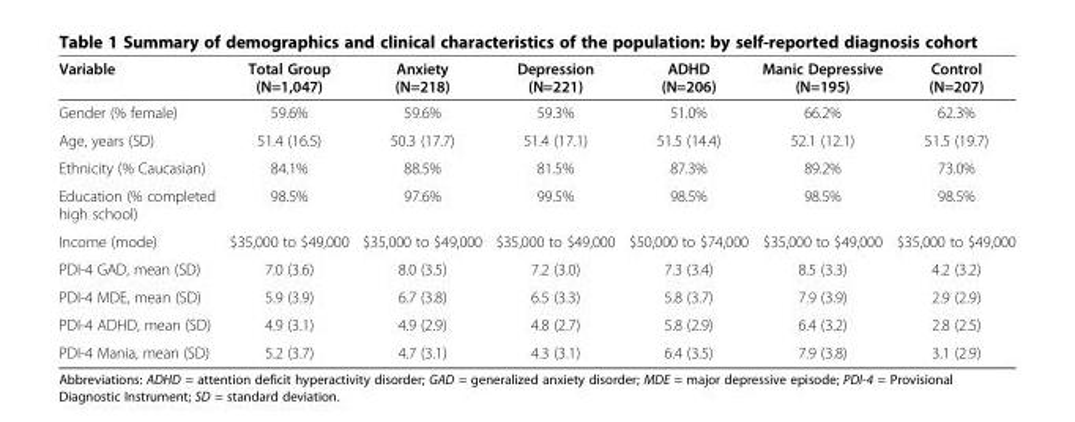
<table><thead><tr><td>Variable</td><td>Total Group (N=1,047)</td><td>Anxiety (N=218)</td><td>Depression (N=221)</td><td>ADHD (N=206)</td><td>Manic Depressive (N=195)</td><td>Control (N=207)</td></tr></thead><tbody><tr><td>Gender (% female)</td><td>59.6%</td><td>59.6%</td><td>59.3%</td><td>51.0%</td><td>66.2%</td><td>62.3%</td></tr><tr><td>Age, years (SD)</td><td>51.4 (16.5)</td><td>50.3 (17.7)</td><td>51.4 (17.1)</td><td>51.5 (14.4)</td><td>52.1 (12.1)</td><td>51.5 (19.7)</td></tr><tr><td>Ethnicity (% Caucasian)</td><td>84.1%</td><td>88.5%</td><td>81.5%</td><td>87.3%</td><td>89.2%</td><td>73.0%</td></tr><tr><td>Education (% completed high school)</td><td>98.5%</td><td>97.6%</td><td>99.5%</td><td>98.5%</td><td>98.5%</td><td>98.5%</td></tr><tr><td>Income (mode)</td><td>$35,000 to $49,000</td><td>$35,000 to $49,000</td><td>$35,000 to $49,000</td><td>$50,000 to $74,000</td><td>$35,000 to $49,000</td><td>$35,000 to $49,000</td></tr><tr><td>PDI-4 GAD, mean (SD)</td><td>7.0 (3.6)</td><td>8.0 (3.5)</td><td>7.2 (3.0)</td><td>7.3 (3.4)</td><td>8.5 (3.3)</td><td>4.2 (3.2)</td></tr><tr><td>PDI-4 MDE, mean (SD)</td><td>5.9 (3.9)</td><td>6.7 (3.8)</td><td>6.5 (3.3)</td><td>5.8 (3.7)</td><td>7.9 (3.9)</td><td>2.9 (2.9)</td></tr><tr><td>PDI-4 ADHD, mean (SD)</td><td>4.9 (3.1)</td><td>4.9 (2.9)</td><td>4.8 (2.7)</td><td>5.8 (2.9)</td><td>6.4 (3.2)</td><td>2.8 (2.5)</td></tr><tr><td>PDI-4 Mania, mean (SD)</td><td>5.2 (3.7)</td><td>4.7 (3.1)</td><td>4.3 (3.1)</td><td>6.4 (3.5)</td><td>7.9 (3.8)</td><td>3.1 (2.9)</td></tr></tbody></table>